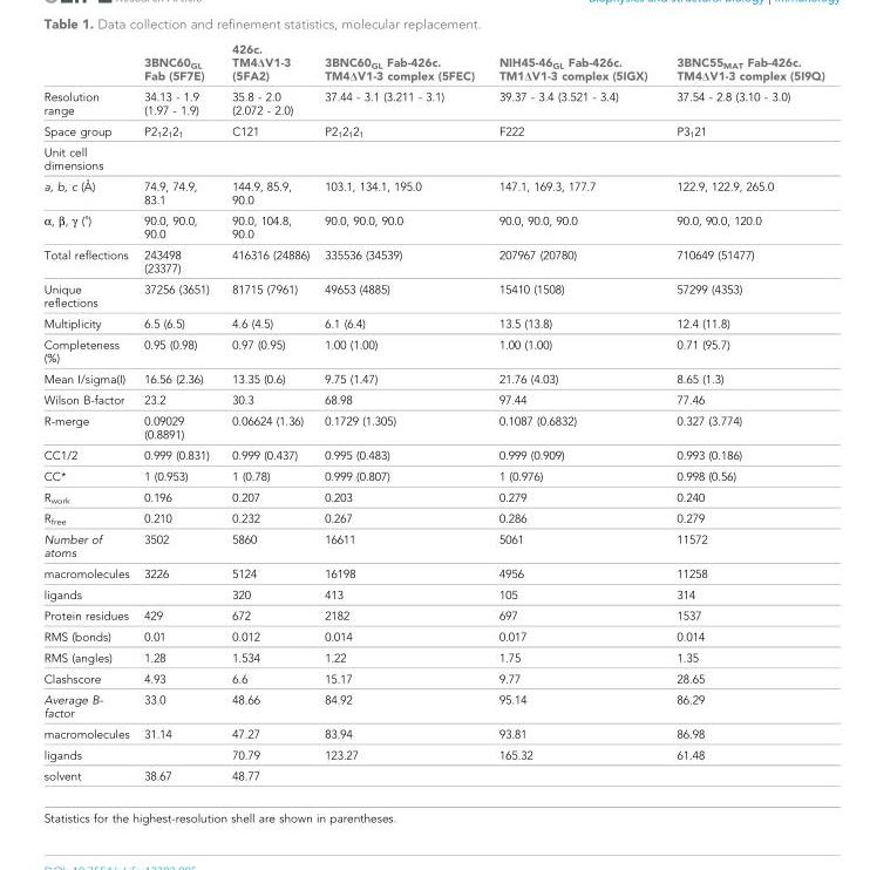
<table><thead><tr><td></td><td>3BNC60<sub>GL</sub> Fab (5F7E)</td><td>426c. TM4ΔV1-3 (5FA2)</td><td>3BNC60<sub>GL</sub> Fab-426c. TM4ΔV1-3 complex (5FEC)</td><td>NIH45-46<sub>GL</sub> Fab-426c. TM1ΔV1-3 complex (5IGX)</td><td>3BNC55<sub>MAT</sub> Fab-426c. TM4ΔV1-3 complex (5I9Q)</td></tr></thead><tbody><tr><td>Resolution range</td><td>34.13 - 1.9 (1.97 - 1.9)</td><td>35.8 - 2.0 (2.072 - 2.0)</td><td>37.44 - 3.1 (3.211 - 3.1)</td><td>39.37 - 3.4 (3.521 - 3.4)</td><td>37.54 - 2.8 (3.10 - 3.0)</td></tr><tr><td>Space group</td><td>P2<sub>1</sub>2<sub>1</sub>2<sub>1</sub></td><td>C121</td><td>P2<sub>1</sub>2<sub>1</sub>2<sub>1</sub></td><td>F222</td><td>P3<sub>1</sub>21</td></tr><tr><td colspan="6">Unit cell dimensions</td></tr><tr><td>a, b, c (A˚ )</td><td>74.9, 74.9, 83.1</td><td>144.9, 85.9, 90.0</td><td>103.1, 134.1, 195.0</td><td>147.1, 169.3, 177.7</td><td>122.9, 122.9, 265.0</td></tr><tr><td>α, β, γ (˚)</td><td>90.0, 90.0, 90.0</td><td>90.0, 104.8, 90.0</td><td>90.0, 90.0, 90.0</td><td>90.0, 90.0, 90.0</td><td>90.0, 90.0, 120.0</td></tr><tr><td>Total reflections</td><td>243498 (23377)</td><td>416316 (24886)</td><td>335536 (34539)</td><td>207967 (20780)</td><td>710649 (51477)</td></tr><tr><td>Unique reflections</td><td>37256 (3651)</td><td>81715 (7961)</td><td>49653 (4885)</td><td>15410 (1508)</td><td>57299 (4353)</td></tr><tr><td>Multiplicity</td><td>6.5 (6.5)</td><td>4.6 (4.5)</td><td>6.1 (6.4)</td><td>13.5 (13.8)</td><td>12.4 (11.8)</td></tr><tr><td>Completeness (%)</td><td>0.95 (0.98)</td><td>0.97 (0.95)</td><td>1.00 (1.00)</td><td>1.00 (1.00)</td><td>0.71 (95.7)</td></tr><tr><td>Mean I/sigma(I)</td><td>16.56 (2.36)</td><td>13.35 (0.6)</td><td>9.75 (1.47)</td><td>21.76 (4.03)</td><td>8.65 (1.3)</td></tr><tr><td>Wilson B-factor</td><td>23.2</td><td>30.3</td><td>68.98</td><td>97.44</td><td>77.46</td></tr><tr><td>R-merge</td><td>0.09029 (0.8891)</td><td>0.06624 (1.36)</td><td>0.1729 (1.305)</td><td>0.1087 (0.6832)</td><td>0.327 (3.774)</td></tr><tr><td>CC1/2</td><td>0.999 (0.831)</td><td>0.999 (0.437)</td><td>0.995 (0.483)</td><td>0.999 (0.909)</td><td>0.993 (0.186)</td></tr><tr><td>CC*</td><td>1 (0.953)</td><td>1 (0.78)</td><td>0.999 (0.807)</td><td>1 (0.976)</td><td>0.998 (0.56)</td></tr><tr><td>R<sub>work</sub></td><td>0.196</td><td>0.207</td><td>0.203</td><td>0.279</td><td>0.240</td></tr><tr><td>R<sub>free</sub></td><td>0.210</td><td>0.232</td><td>0.267</td><td>0.286</td><td>0.279</td></tr><tr><td>Number of atoms</td><td>3502</td><td>5860</td><td>16611</td><td>5061</td><td>11572</td></tr><tr><td>macromolecules</td><td>3226</td><td>5124</td><td>16198</td><td>4956</td><td>11258</td></tr><tr><td>ligands</td><td></td><td>320</td><td>413</td><td>105</td><td>314</td></tr><tr><td>Protein residues</td><td>429</td><td>672</td><td>2182</td><td>697</td><td>1537</td></tr><tr><td>RMS (bonds)</td><td>0.01</td><td>0.012</td><td>0.014</td><td>0.017</td><td>0.014</td></tr><tr><td>RMS (angles)</td><td>1.28</td><td>1.534</td><td>1.22</td><td>1.75</td><td>1.35</td></tr><tr><td>Clashscore</td><td>4.93</td><td>6.6</td><td>15.17</td><td>9.77</td><td>28.65</td></tr><tr><td>Average B- factor</td><td>33.0</td><td>48.66</td><td>84.92</td><td>95.14</td><td>86.29</td></tr><tr><td>macromolecules</td><td>31.14</td><td>47.27</td><td>83.94</td><td>93.81</td><td>86.98</td></tr><tr><td>ligands</td><td></td><td>70.79</td><td>123.27</td><td>165.32</td><td>61.48</td></tr><tr><td>solvent</td><td>38.67</td><td>48.77</td><td></td><td></td><td></td></tr><tr><td colspan="4">Statistics for the highest-resolution shell are shown in parentheses.</td><td></td><td></td></tr></tbody></table>